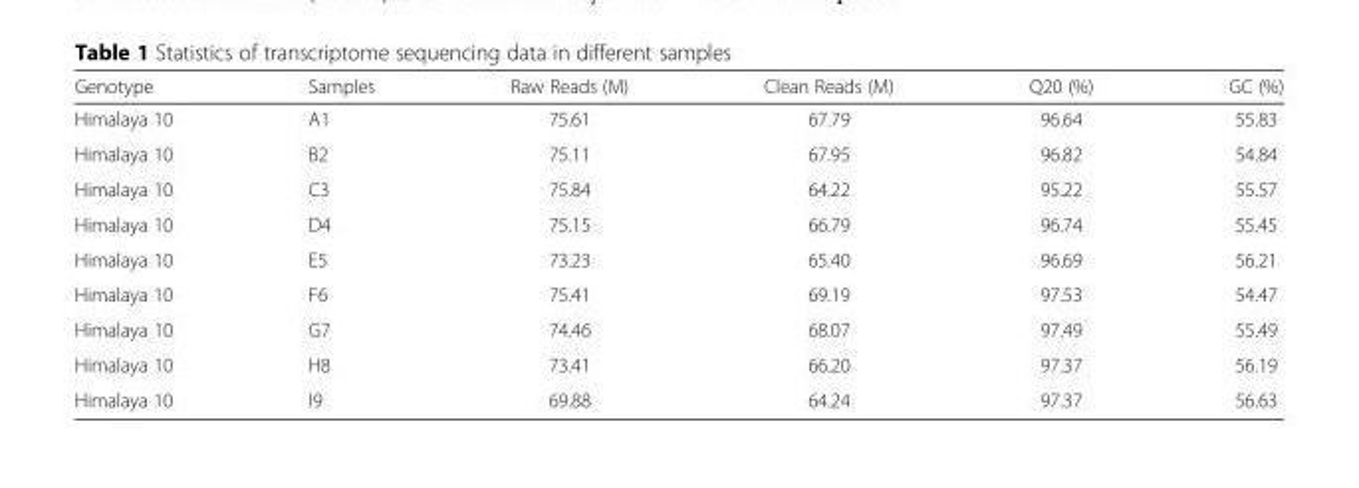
<table><thead><tr><td>Genotype</td><td>Samples</td><td>Raw Reads (M)</td><td>Clean Reads (M)</td><td>Q20 (%)</td><td>GC (%)</td></tr></thead><tbody><tr><td>Himalaya 10</td><td>A1</td><td>75.61</td><td>67.79</td><td>96.64</td><td>55.83</td></tr><tr><td>Himalaya 10</td><td>B2</td><td>75.11</td><td>67.95</td><td>96.82</td><td>54.84</td></tr><tr><td>Himalaya 10</td><td>C3</td><td>75.84</td><td>64.22</td><td>95.22</td><td>55.57</td></tr><tr><td>Himalaya 10</td><td>D4</td><td>75.15</td><td>66.79</td><td>96.74</td><td>55.45</td></tr><tr><td>Himalaya 10</td><td>E5</td><td>73.23</td><td>65.40</td><td>96.69</td><td>56.21</td></tr><tr><td>Himalaya 10</td><td>F6</td><td>75.41</td><td>69.19</td><td>97.53</td><td>54.47</td></tr><tr><td>Himalaya 10</td><td>G7</td><td>74.46</td><td>68.07</td><td>97.49</td><td>55.49</td></tr><tr><td>Himalaya 10</td><td>H8</td><td>73.41</td><td>66.20</td><td>97.37</td><td>56.19</td></tr><tr><td>Himalaya 10</td><td>I9</td><td>69.88</td><td>64.24</td><td>97.37</td><td>56.63</td></tr></tbody></table>